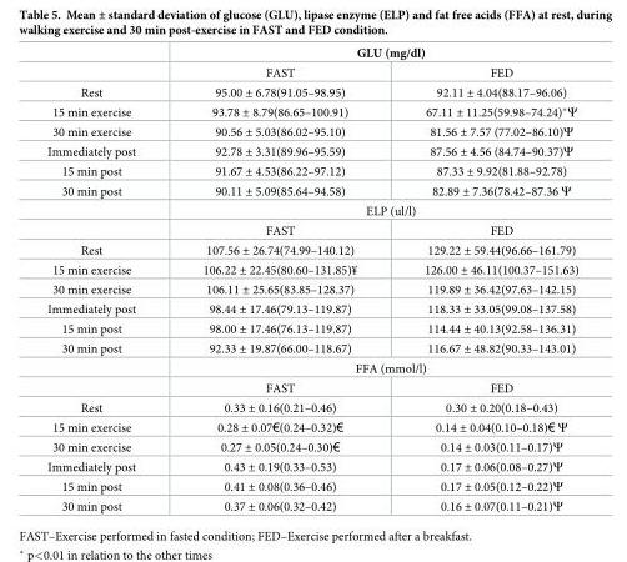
<table><thead><tr><td rowspan="2"></td><td colspan="2">GLU (mg/dl)</td></tr><tr><td>FAST</td><td>FED</td></tr></thead><tbody><tr><td>Rest</td><td>95.00 ± 6.78(91.05–98.95)</td><td>92.11 ± 4.04(88.17–96.06)</td></tr><tr><td>15 min exercise</td><td>93.78 ± 8.79(86.65–100.91)</td><td>67.11 ± 11.25(59.98–74.24)*Ψ</td></tr><tr><td>30 min exercise</td><td>90.56 ± 5.03(86.02–95.10)</td><td>81.56 ± 7.57 (77.02–86.10)Ψ</td></tr><tr><td>Immediately post</td><td>92.78 ± 3.31(89.96–95.59)</td><td>87.56 ± 4.56 (84.74–90.37)Ψ</td></tr><tr><td>15 min post</td><td>91.67 ± 4.53(86.22–97.12)</td><td>87.33 ± 9.92(81.88–92.78)</td></tr><tr><td rowspan="3">30 min post</td><td>90.11 ± 5.09(85.64–94.58)</td><td>82.89 ± 7.36(78.42–87.36 Ψ</td></tr><tr><td colspan="2">ELP (ul/l)</td></tr><tr><td>FAST</td><td>FED</td></tr><tr><td>Rest</td><td>107.56 ± 26.74(74.99–140.12)</td><td>129.22 ± 59.44(96.66–161.79)</td></tr><tr><td>15 min exercise</td><td>106.22 ± 22.45(80.60–131.85)¥</td><td>126.00 ± 46.11(100.37–151.63)</td></tr><tr><td>30 min exercise</td><td>106.11 ± 25.65(83.85–128.37)</td><td>119.89 ± 36.42(97.63–142.15)</td></tr><tr><td>Immediately post</td><td>98.44 ± 17.46(79.13–119.87)</td><td>118.33 ± 33.05(99.08–137.58)</td></tr><tr><td>15 min post</td><td>98.00 ± 17.46(76.13–119.87)</td><td>114.44 ± 40.13(92.58–136.31)</td></tr><tr><td rowspan="3">30 min post</td><td>92.33 ± 19.87(66.00–118.67)</td><td>116.67 ± 48.82(90.33–143.01)</td></tr><tr><td colspan="2">FFA (mmol/l)</td></tr><tr><td>FAST</td><td>FED</td></tr><tr><td>Rest</td><td>0.33 ± 0.16(0.21–0.46)</td><td>0.30 ± 0.20(0.18–0.43)</td></tr><tr><td>15 min exercise</td><td>0.28 ± 0.07€(0.24–0.32)€</td><td>0.14 ± 0.04(0.10–0.18)€ Ψ</td></tr><tr><td>30 min exercise</td><td>0.27 ± 0.05(0.24–0.30)€</td><td>0.14 ± 0.03(0.11–0.17)Ψ</td></tr><tr><td>Immediately post</td><td>0.43 ± 0.19(0.33–0.53)</td><td>0.17 ± 0.06(0.08–0.27)Ψ</td></tr><tr><td>15 min post</td><td>0.41 ± 0.08(0.36–0.46)</td><td>0.17 ± 0.05(0.12–0.22)Ψ</td></tr><tr><td>30 min post</td><td>0.37 ± 0.06(0.32–0.42)</td><td>0.16 ± 0.07(0.11–0.21)Ψ</td></tr></tbody></table>